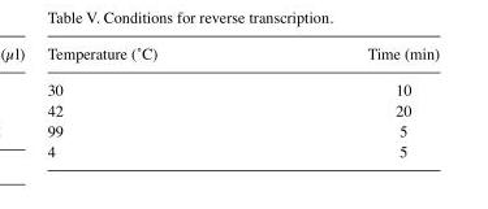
<table><thead><tr><td>Temperature (˚C)</td><td>Time (min)</td></tr></thead><tbody><tr><td>30</td><td>10</td></tr><tr><td>42</td><td>20</td></tr><tr><td>99</td><td>5</td></tr><tr><td>4</td><td>5</td></tr></tbody></table>